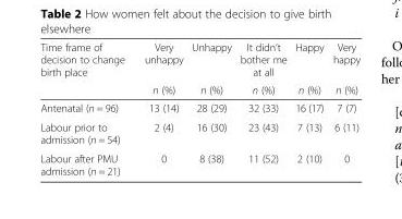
<table><thead><tr><td rowspan="2">Time frame of decision to change birth place</td><td rowspan="2">Very unhappy n (%)</td><td rowspan="2">Unhappy n (%)</td><td rowspan="2">It didn’t bother me at all n (%)</td><td rowspan="2">Happy n (%)</td><td rowspan="2">Very happy n (%)</td></tr><tr></tr></thead><tbody><tr><td>Antenatal (n = 96)</td><td>13 (14)</td><td>28 (29)</td><td>32 (33)</td><td>16 (17)</td><td>7 (7)</td></tr><tr><td>Labour prior to admission (n = 54)</td><td>2 (4)</td><td>16 (30)</td><td>23 (43)</td><td>7 (13)</td><td>6 (11)</td></tr><tr><td>Labour after PMU admission (n = 21)</td><td>0</td><td>8 (38)</td><td>11 (52)</td><td>2 (10)</td><td>0</td></tr></tbody></table>